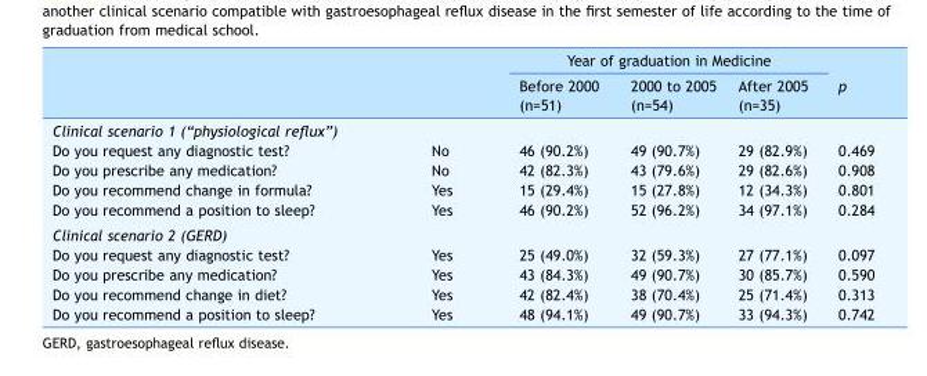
<table><thead><tr><td rowspan="2"></td><td rowspan="2"></td><td colspan="3">Year of graduation in Medicine</td><td rowspan="2">p</td></tr><tr><td>Before 2000 (n=51)</td><td>2000 to 2005 (n=54)</td><td>After 2005 (n=35)</td></tr></thead><tbody><tr><td colspan="6">Clinical scenario 1 (“physiological reflux”)</td></tr><tr><td>Do you request any diagnostic test?</td><td>No</td><td>46 (90.2%)</td><td>49 (90.7%)</td><td>29 (82.9%)</td><td>0.469</td></tr><tr><td>Do you prescribe any medication?</td><td>No</td><td>42 (82.3%)</td><td>43 (79.6%)</td><td>29 (82.6%)</td><td>0.908</td></tr><tr><td>Do you recommend change in formula?</td><td>Yes</td><td>15 (29.4%)</td><td>15 (27.8%)</td><td>12 (34.3%)</td><td>0.801</td></tr><tr><td>Do you recommend a position to sleep?</td><td>Yes</td><td>46 (90.2%)</td><td>52 (96.2%)</td><td>34 (97.1%)</td><td>0.284</td></tr><tr><td colspan="6">Clinical scenario 2 (GERD)</td></tr><tr><td>Do you request any diagnostic test?</td><td>Yes</td><td>25 (49.0%)</td><td>32 (59.3%)</td><td>27 (77.1%)</td><td>0.097</td></tr><tr><td>Do you prescribe any medication?</td><td>Yes</td><td>43 (84.3%)</td><td>49 (90.7%)</td><td>30 (85.7%)</td><td>0.590</td></tr><tr><td>Do you recommend change in diet?</td><td>Yes</td><td>42 (82.4%)</td><td>38 (70.4%)</td><td>25 (71.4%)</td><td>0.313</td></tr><tr><td>Do you recommend a position to sleep?</td><td>Yes</td><td>48 (94.1%)</td><td>49 (90.7%)</td><td>33 (94.3%)</td><td>0.742</td></tr></tbody></table>